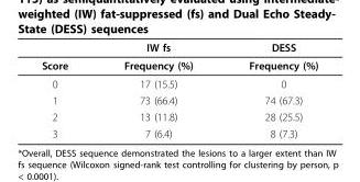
<table><thead><tr><td></td><td>IW fs</td><td>DESS</td></tr></thead><tbody><tr><td>Score</td><td>Frequency (%)</td><td>Frequency (%)</td></tr><tr><td>0</td><td>17 (15.5)</td><td>0</td></tr><tr><td>1</td><td>73 (66.4)</td><td>74 (67.3)</td></tr><tr><td>2</td><td>13 (11.8)</td><td>28 (25.5)</td></tr><tr><td>3</td><td>7 (6.4)</td><td>8 (7.3)</td></tr></tbody></table>